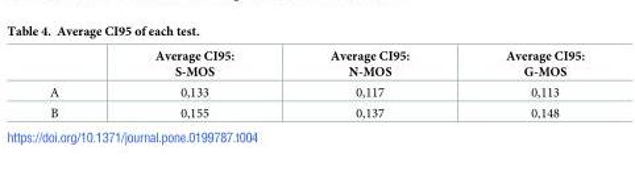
<table><thead><tr><td></td><td>Average CI95: S-MOS</td><td>Average CI95: N-MOS</td><td>Average CI95: G-MOS</td></tr></thead><tbody><tr><td>A</td><td>0,133</td><td>0,117</td><td>0,113</td></tr><tr><td>B</td><td>0,155</td><td>0,137</td><td>0,148</td></tr></tbody></table>